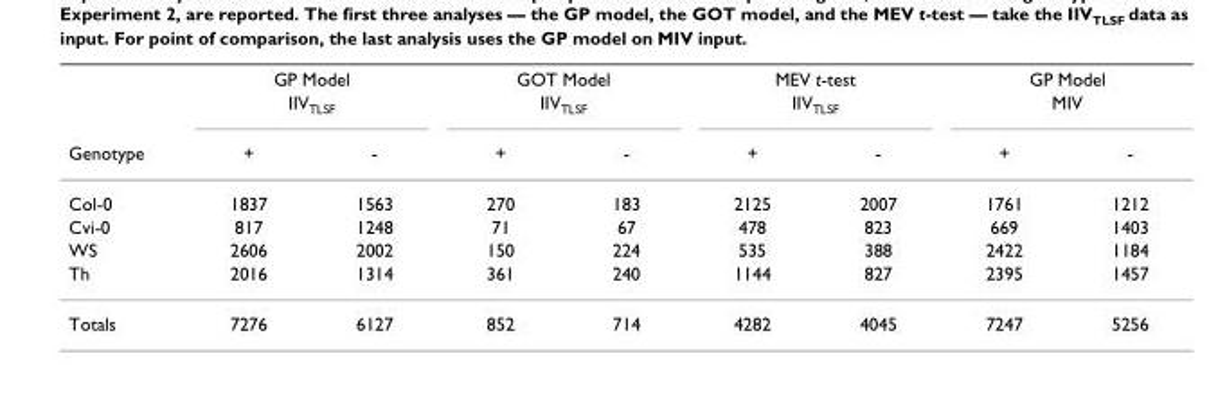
<table><thead><tr><td rowspan="3">Genotype</td><td rowspan="2" colspan="2">GP Model IIVTLSF</td><td rowspan="2" colspan="2">GOT Model IIVTLSF</td><td rowspan="2" colspan="2">MEV t-test IIVTLSF</td><td rowspan="2" colspan="2">GP Model MIV</td></tr><tr></tr><tr><td>+</td><td>-</td><td>+</td><td>-</td><td>+</td><td>-</td><td>+</td><td>-</td></tr></thead><tbody><tr><td>Col-0</td><td>1837</td><td>1563</td><td>270</td><td>183</td><td>2125</td><td>2007</td><td>1761</td><td>1212</td></tr><tr><td>Cvi-0</td><td>817</td><td>1248</td><td>71</td><td>67</td><td>478</td><td>823</td><td>669</td><td>1403</td></tr><tr><td>WS</td><td>2606</td><td>2002</td><td>150</td><td>224</td><td>535</td><td>388</td><td>2422</td><td>1184</td></tr><tr><td>Th</td><td>2016</td><td>1314</td><td>361</td><td>240</td><td>1144</td><td>827</td><td>2395</td><td>1457</td></tr><tr><td>Totals</td><td>7276</td><td>6127</td><td>852</td><td>714</td><td>4282</td><td>4045</td><td>7247</td><td>5256</td></tr></tbody></table>